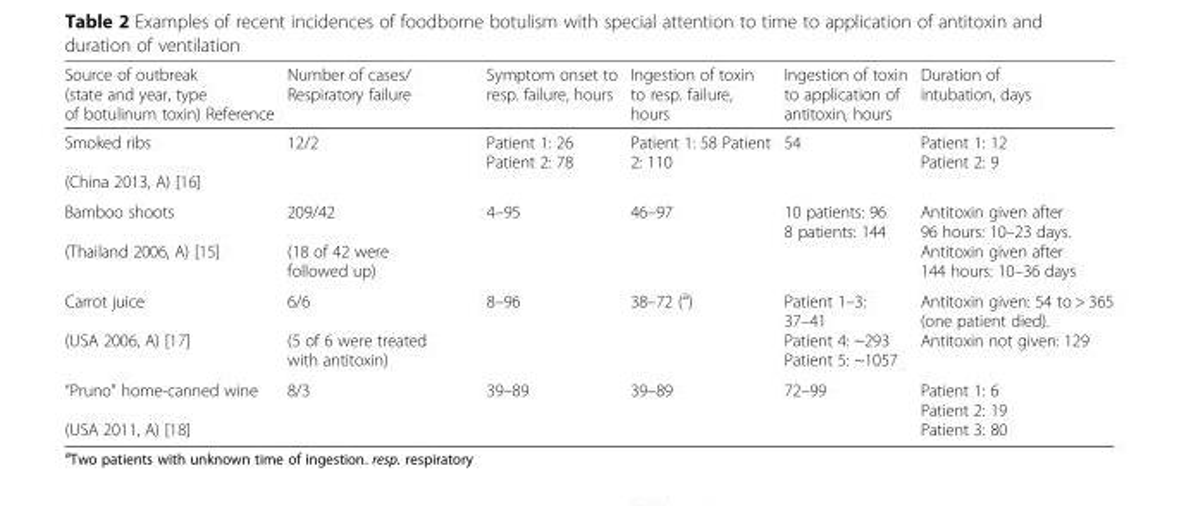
<table><thead><tr><td>Source of outbreak (state and year, type of botulinum toxin) Reference</td><td>Number of cases/ Respiratory failure</td><td>Symptom onset to resp. failure, hours</td><td>Ingestion of toxin to resp. failure, hours</td><td>Ingestion of toxin to application of antitoxin, hours</td><td>Duration of intubation, days</td></tr></thead><tbody><tr><td>Smoked ribs (China 2013, A) [16]</td><td>12/2</td><td>Patient 1: 26 Patient 2: 78</td><td>Patient 1: 58 Patient 2: 110</td><td>54</td><td>Patient 1: 12 Patient 2: 9</td></tr><tr><td>Bamboo shoots (Thailand 2006, A) [15]</td><td>209/42 (18 of 42 were followed up)</td><td>4–95</td><td>46–97</td><td>10 patients: 96 8 patients: 144</td><td>Antitoxin given after 96 hours: 10–23 days. Antitoxin given after 144 hours: 10–36 days</td></tr><tr><td>Carrot juice (USA 2006, A) [17]</td><td>6/6 (5 of 6 were treated with antitoxin)</td><td>8–96</td><td>38–72 (<sup>a</sup>)</td><td>Patient 1–3: 37–41 Patient 4: ~293 Patient 5: ~1057</td><td>Antitoxin given: 54 to &gt; 365 (one patient died). Antitoxin not given: 129</td></tr><tr><td>“Pruno” home-canned wine (USA 2011, A) [18]</td><td>8/3</td><td>39–89</td><td>39–89</td><td>72–99</td><td>Patient 1: 6 Patient 2: 19 Patient 3: 80</td></tr></tbody></table>